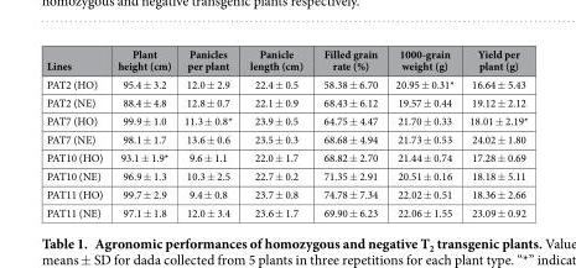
<table><thead><tr><td>Lines</td><td>Plant height (cm)</td><td>Panicles per plant</td><td>Panicle length (cm)</td><td>Filled grain rate (%)</td><td>1000-grain weight (g)</td><td>Yield per plant (g)</td></tr></thead><tbody><tr><td>PAT2 (HO)</td><td>95.4 ± 3.2</td><td>12.0 ± 2.9</td><td>22.4 ± 0.5</td><td>58.38 ± 6.70</td><td>20.95 ± 0.31*</td><td>16.64 ± 5.43</td></tr><tr><td>PAT2 (NE)</td><td>88.4 ± 4.8</td><td>12.8 ± 0.7</td><td>22.1 ± 0.9</td><td>68.43 ± 6.12</td><td>19.57 ± 0.44</td><td>19.12 ± 2.12</td></tr><tr><td>PAT7 (HO)</td><td>99.9 ± 1.0</td><td>11.3 ± 0.8*</td><td>23.9 ± 0.5</td><td>64.75 ± 4.47</td><td>21.70 ± 0.33</td><td>18.01 ± 2.19*</td></tr><tr><td>PAT7 (NE)</td><td>98.1 ± 1.7</td><td>13.6 ± 0.6</td><td>23.5 ± 0.3</td><td>68.68 ± 4.94</td><td>21.73 ± 0.53</td><td>24.02 ± 1.80</td></tr><tr><td>PAT10 (HO)</td><td>93.1 ± 1.9*</td><td>9.6 ± 1.1</td><td>22.0 ± 1.7</td><td>68.82 ± 2.70</td><td>21.44 ± 0.74</td><td>17.28 ± 0.69</td></tr><tr><td>PAT10 (NE)</td><td>96.9 ± 1.3</td><td>10.3 ± 2.5</td><td>22.7 ± 0.2</td><td>71.35 ± 2.91</td><td>20.51 ± 0.16</td><td>18.18 ± 5.11</td></tr><tr><td>PAT11 (HO)</td><td>99.7 ± 2.9</td><td>9.4 ± 0.8</td><td>23.7 ± 0.8</td><td>74.78 ± 7.34</td><td>22.02 ± 0.51</td><td>18.36 ± 2.66</td></tr><tr><td>PAT11 (NE)</td><td>97.1 ± 1.8</td><td>12.0 ± 3.4</td><td>23.6 ± 1.7</td><td>69.90 ± 6.23</td><td>22.06 ± 1.55</td><td>23.09 ± 0.92</td></tr></tbody></table>